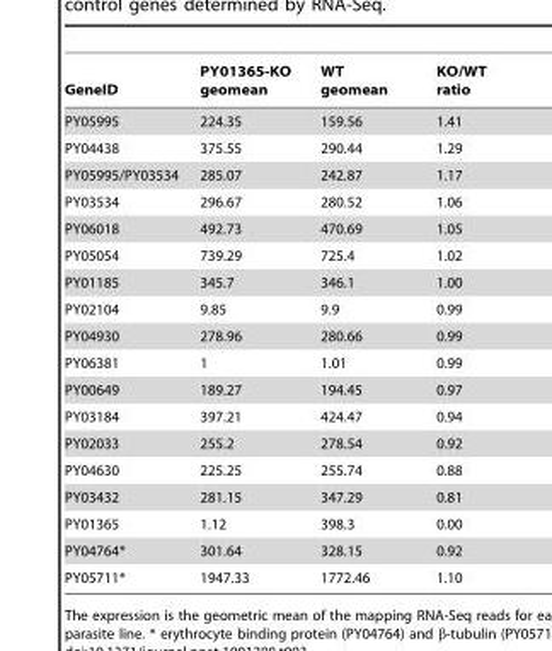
<table><thead><tr><td>GeneID</td><td>PY01365-KO geomean</td><td>WT geomean</td><td>KO/WT ratio</td></tr></thead><tbody><tr><td>PY05995</td><td>224.35</td><td>159.56</td><td>1.41</td></tr><tr><td>PY04438</td><td>375.55</td><td>290.44</td><td>1.29</td></tr><tr><td>PY05995/PY03534</td><td>285.07</td><td>242.87</td><td>1.17</td></tr><tr><td>PY03534</td><td>296.67</td><td>280.52</td><td>1.06</td></tr><tr><td>PY06018</td><td>492.73</td><td>470.69</td><td>1.05</td></tr><tr><td>PY05054</td><td>739.29</td><td>725.4</td><td>1.02</td></tr><tr><td>PY01185</td><td>345.7</td><td>346.1</td><td>1.00</td></tr><tr><td>PY02104</td><td>9.85</td><td>9.9</td><td>0.99</td></tr><tr><td>PY04930</td><td>278.96</td><td>280.66</td><td>0.99</td></tr><tr><td>PY06381</td><td>1</td><td>1.01</td><td>0.99</td></tr><tr><td>PY00649</td><td>189.27</td><td>194.45</td><td>0.97</td></tr><tr><td>PY03184</td><td>397.21</td><td>424.47</td><td>0.94</td></tr><tr><td>PY02033</td><td>255.2</td><td>278.54</td><td>0.92</td></tr><tr><td>PY04630</td><td>225.25</td><td>255.74</td><td>0.88</td></tr><tr><td>PY03432</td><td>281.15</td><td>347.29</td><td>0.81</td></tr><tr><td>PY01365</td><td>1.12</td><td>398.3</td><td>0.00</td></tr><tr><td>PY04764*</td><td>301.64</td><td>328.15</td><td>0.92</td></tr><tr><td>PY05711*</td><td>1947.33</td><td>1772.46</td><td>1.10</td></tr></tbody></table>